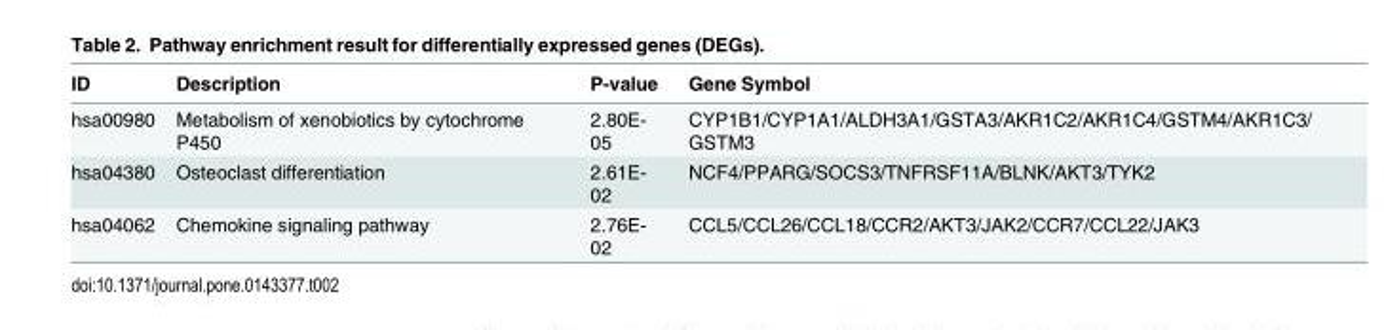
<table><thead><tr><td>ID</td><td>Description</td><td>P-value</td><td>Gene Symbol</td></tr></thead><tbody><tr><td>hsa00980</td><td>Metabolism of xenobiotics by cytochrome P450</td><td>2.80E- 05</td><td>CYP1B1/CYP1A1/ALDH3A1/GSTA3/AKR1C2/AKR1C4/GSTM4/AKR1C3/ GSTM3</td></tr><tr><td>hsa04380</td><td>Osteoclast differentiation</td><td>2.61E- 02</td><td>NCF4/PPARG/SOCS3/TNFRSF11A/BLNK/AKT3/TYK2</td></tr><tr><td>hsa04062</td><td>Chemokine signaling pathway</td><td>2.76E- 02</td><td>CCL5/CCL26/CCL18/CCR2/AKT3/JAK2/CCR7/CCL22/JAK3</td></tr></tbody></table>